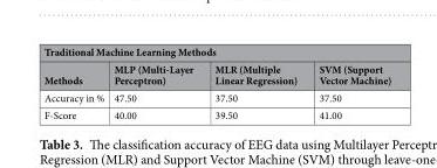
<table><thead><tr><td colspan="4">Traditional Machine Learning Methods</td></tr><tr><td>Methods</td><td>MLP (Multi-Layer Perceptron)</td><td>MLR (Multiple Linear Regression)</td><td>SVM (Support Vector Machine)</td></tr></thead><tbody><tr><td>Accuracy in %</td><td>47.50</td><td>37.50</td><td>37.50</td></tr><tr><td>F-Score</td><td>40.00</td><td>39.50</td><td>41.00</td></tr></tbody></table>